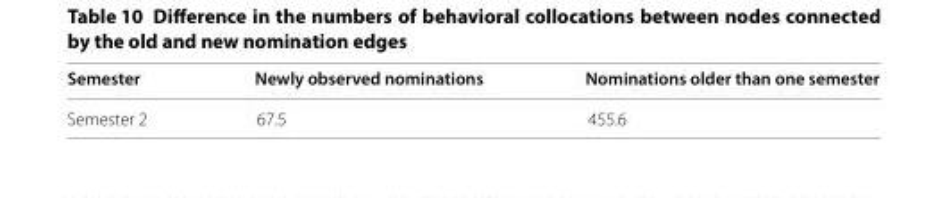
<table><thead><tr><td>Semester</td><td>Newly observed nominations</td><td>Nominations older than one semester</td></tr></thead><tbody><tr><td>Semester 2</td><td>67.5</td><td>455.6</td></tr></tbody></table>